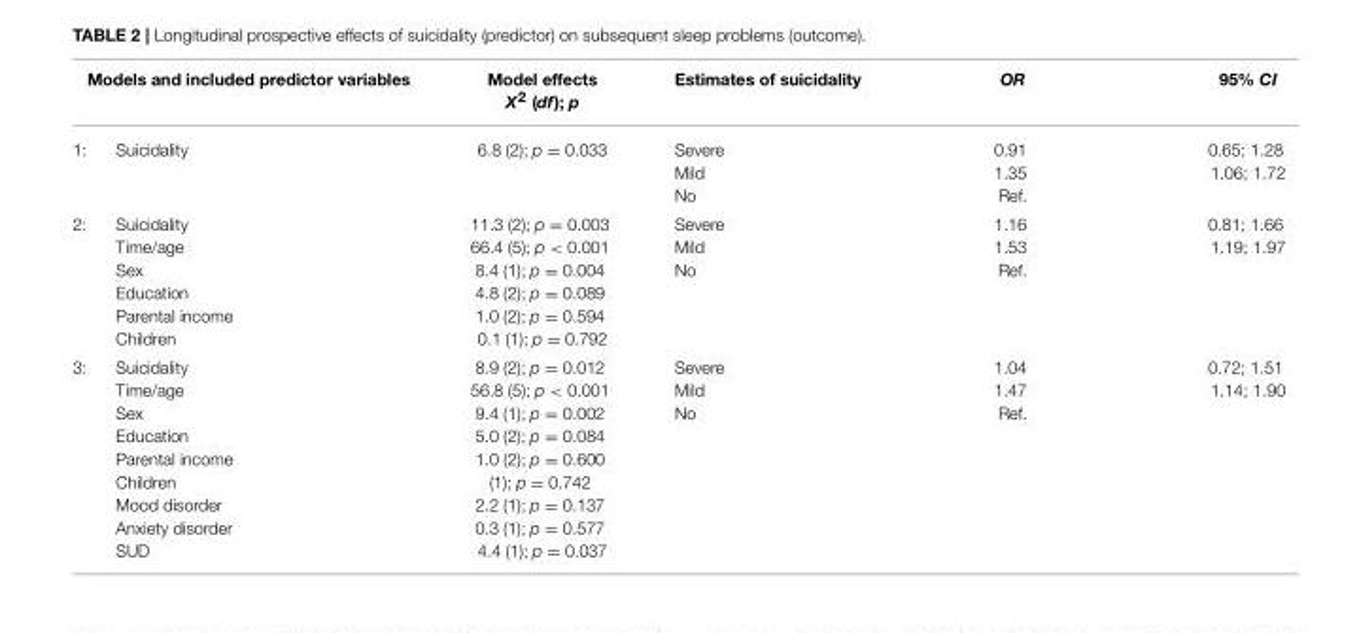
<table><thead><tr><td colspan="2">Models and included predictor variables</td><td rowspan="2">Model effects X<sup>2</sup> (df); p 6.8 (2); p = 0.033</td><td rowspan="2">Estimates of suicidality Severe Mild No</td><td rowspan="2">OR 0.91 1.35 Ref.</td><td rowspan="2">95% CI 0.65; 1.28 1.06; 1.72</td></tr><tr><td>1:</td><td>Suicidality</td></tr></thead><tbody><tr><td>2:</td><td>Suicidality Time/age Sex Education Parental income Children</td><td>11.3 (2); p = 0.003 66.4 (5); p &lt; 0.001 8.4 (1); p = 0.004 4.8 (2); p = 0.089 1.0 (2); p = 0.594 0.1 (1); p = 0.792</td><td>Severe Mild No</td><td>1.16 1.53 Ref.</td><td>0.81; 1.66 1.19; 1.97</td></tr><tr><td>3:</td><td>Suicidality Time/age Sex Education Parental income Children Mood disorder Anxiety disorder SUD</td><td>8.9 (2); p = 0.012 56.8 (5); p &lt; 0.001 9.4 (1); p = 0.002 5.0 (2); p = 0.084 1.0 (2); p = 0.600 (1); p = 0.742 2.2 (1); p = 0.137 0.3 (1); p = 0.577 4.4 (1); p = 0.037</td><td>Severe Mild No</td><td>1.04 1.47 Ref.</td><td>0.72; 1.51 1.14; 1.90</td></tr></tbody></table>